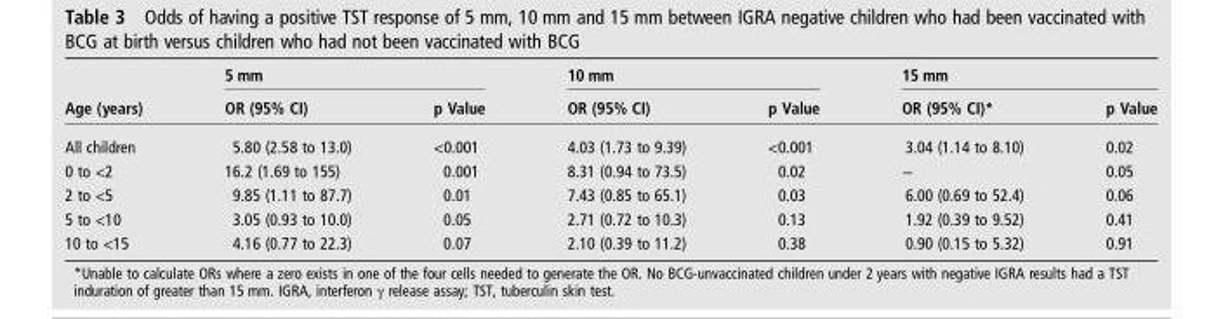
<table><thead><tr><td rowspan="2">Age (years)</td><td colspan="2">5 mm</td><td colspan="2">10 mm</td><td colspan="2">15 mm</td></tr><tr><td>OR (95% CI)</td><td>p Value</td><td>OR (95% CI)</td><td>p Value</td><td>OR (95% CI)*</td><td>p Value</td></tr></thead><tbody><tr><td>All children</td><td>5.80 (2.58 to 13.0)</td><td>&lt;0.001</td><td>4.03 (1.73 to 9.39)</td><td>&lt;0.001</td><td>3.04 (1.14 to 8.10)</td><td>0.02</td></tr><tr><td>0 to &lt;2</td><td>16.2 (1.69 to 155)</td><td>0.001</td><td>8.31 (0.94 to 73.5)</td><td>0.02</td><td>−</td><td>0.05</td></tr><tr><td>2 to &lt;5</td><td>9.85 (1.11 to 87.7)</td><td>0.01</td><td>7.43 (0.85 to 65.1)</td><td>0.03</td><td>6.00 (0.69 to 52.4)</td><td>0.06</td></tr><tr><td>5 to &lt;10</td><td>3.05 (0.93 to 10.0)</td><td>0.05</td><td>2.71 (0.72 to 10.3)</td><td>0.13</td><td>1.92 (0.39 to 9.52)</td><td>0.41</td></tr><tr><td>10 to &lt;15</td><td>4.16 (0.77 to 22.3)</td><td>0.07</td><td>2.10 (0.39 to 11.2)</td><td>0.38</td><td>0.90 (0.15 to 5.32)</td><td>0.91</td></tr></tbody></table>